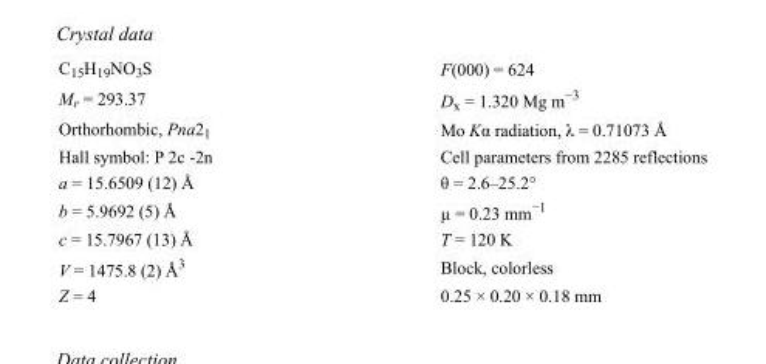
<table><tbody><tr><td>C<sub>15</sub>H<sub>19</sub>NO<sub>3</sub>S</td><td>F(000) = 624</td></tr><tr><td>M<sub>r</sub> = 293.37</td><td>D<sub>x</sub> = 1.320 Mg m<sup>−3</sup></td></tr><tr><td>Orthorhombic, Pna2<sub>1</sub></td><td>Mo Kα radiation, λ = 0.71073 Å</td></tr><tr><td>Hall symbol: P 2c -2n</td><td>Cell parameters from 2285 reflections</td></tr><tr><td>a = 15.6509 (12) Å</td><td>θ = 2.6–25.2°</td></tr><tr><td>b = 5.9692 (5) Å</td><td>µ = 0.23 mm<sup>−1</sup></td></tr><tr><td>c = 15.7967 (13) Å</td><td>T = 120 K</td></tr><tr><td>V = 1475.8 (2) Å<sup>3</sup></td><td>Block, colorless</td></tr><tr><td>Z = 4</td><td>0.25 × 0.20 × 0.18 mm</td></tr></tbody></table>